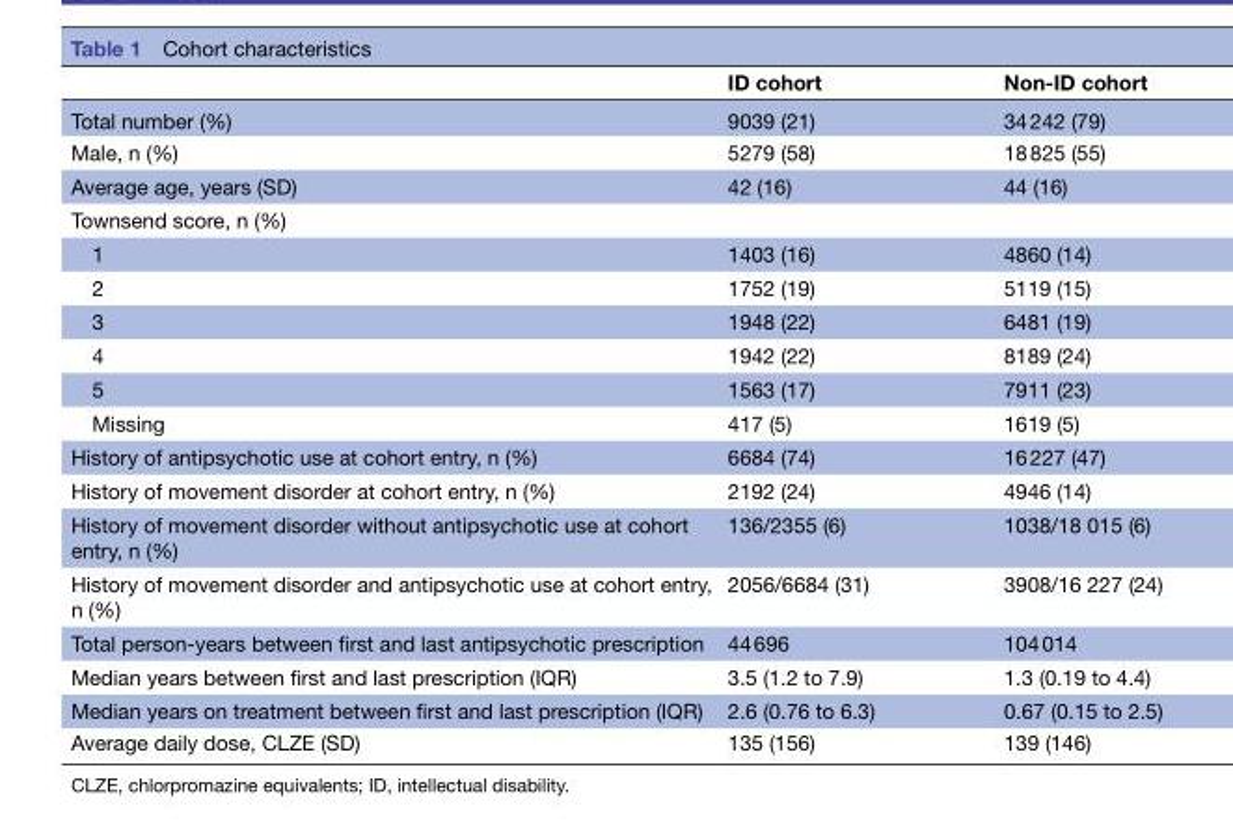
<table><thead><tr><td></td><td>ID cohort</td><td>Non-ID cohort</td></tr></thead><tbody><tr><td>Total number (%)</td><td>9039 (21)</td><td>34 242 (79)</td></tr><tr><td>Male, n (%)</td><td>5279 (58)</td><td>18 825 (55)</td></tr><tr><td>Average age, years (SD)</td><td>42 (16)</td><td>44 (16)</td></tr><tr><td colspan="3">Townsend score, n (%)</td></tr><tr><td>1</td><td>1403 (16)</td><td>4860 (14)</td></tr><tr><td>2</td><td>1752 (19)</td><td>5119 (15)</td></tr><tr><td>3</td><td>1948 (22)</td><td>6481 (19)</td></tr><tr><td>4</td><td>1942 (22)</td><td>8189 (24)</td></tr><tr><td>5</td><td>1563 (17)</td><td>7911 (23)</td></tr><tr><td>Missing</td><td>417 (5)</td><td>1619 (5)</td></tr><tr><td>History of antipsychotic use at cohort entry, n (%)</td><td>6684 (74)</td><td>16 227 (47)</td></tr><tr><td>History of movement disorder at cohort entry, n (%)</td><td>2192 (24)</td><td>4946 (14)</td></tr><tr><td>History of movement disorder without antipsychotic use at cohort entry, n (%)</td><td>136/2355 (6)</td><td>1038/18 015 (6)</td></tr><tr><td>History of movement disorder and antipsychotic use at cohort entry, n (%)</td><td>2056/6684 (31)</td><td>3908/16 227 (24)</td></tr><tr><td>Total person-years between first and last antipsychotic prescription</td><td>44 696</td><td>104 014</td></tr><tr><td>Median years between first and last prescription (IQR)</td><td>3.5 (1.2 to 7.9)</td><td>1.3 (0.19 to 4.4)</td></tr><tr><td>Median years on treatment between first and last prescription (IQR)</td><td>2.6 (0.76 to 6.3)</td><td>0.67 (0.15 to 2.5)</td></tr><tr><td>Average daily dose, CLZE (SD)</td><td>135 (156)</td><td>139 (146)</td></tr></tbody></table>